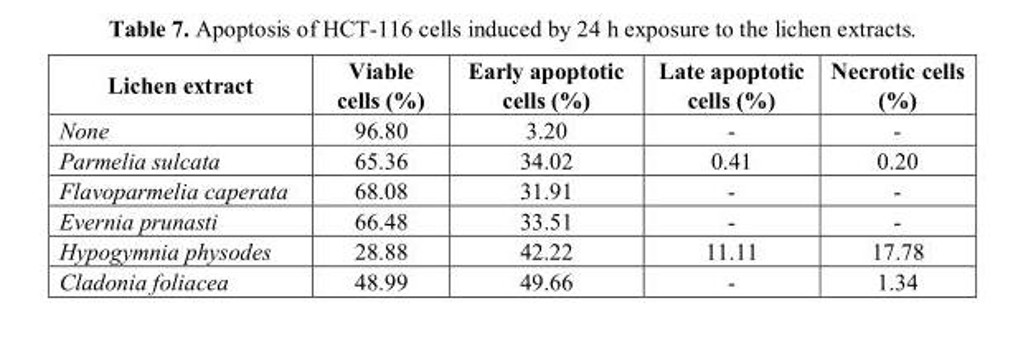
<table><thead><tr><td>Lichen extract</td><td>Viable cells (%)</td><td>Early apoptotic cells (%)</td><td>Late apoptotic cells (%)</td><td>Necrotic cells (%)</td></tr></thead><tbody><tr><td>None</td><td>96.80</td><td>3.20</td><td>-</td><td>-</td></tr><tr><td>Parmelia sulcata</td><td>65.36</td><td>34.02</td><td>0.41</td><td>0.20</td></tr><tr><td>Flavoparmelia caperata</td><td>68.08</td><td>31.91</td><td>-</td><td>-</td></tr><tr><td>Evernia prunasti</td><td>66.48</td><td>33.51</td><td>-</td><td>-</td></tr><tr><td>Hypogymnia physodes</td><td>28.88</td><td>42.22</td><td>11.11</td><td>17.78</td></tr><tr><td>Cladonia foliacea</td><td>48.99</td><td>49.66</td><td>-</td><td>1.34</td></tr></tbody></table>